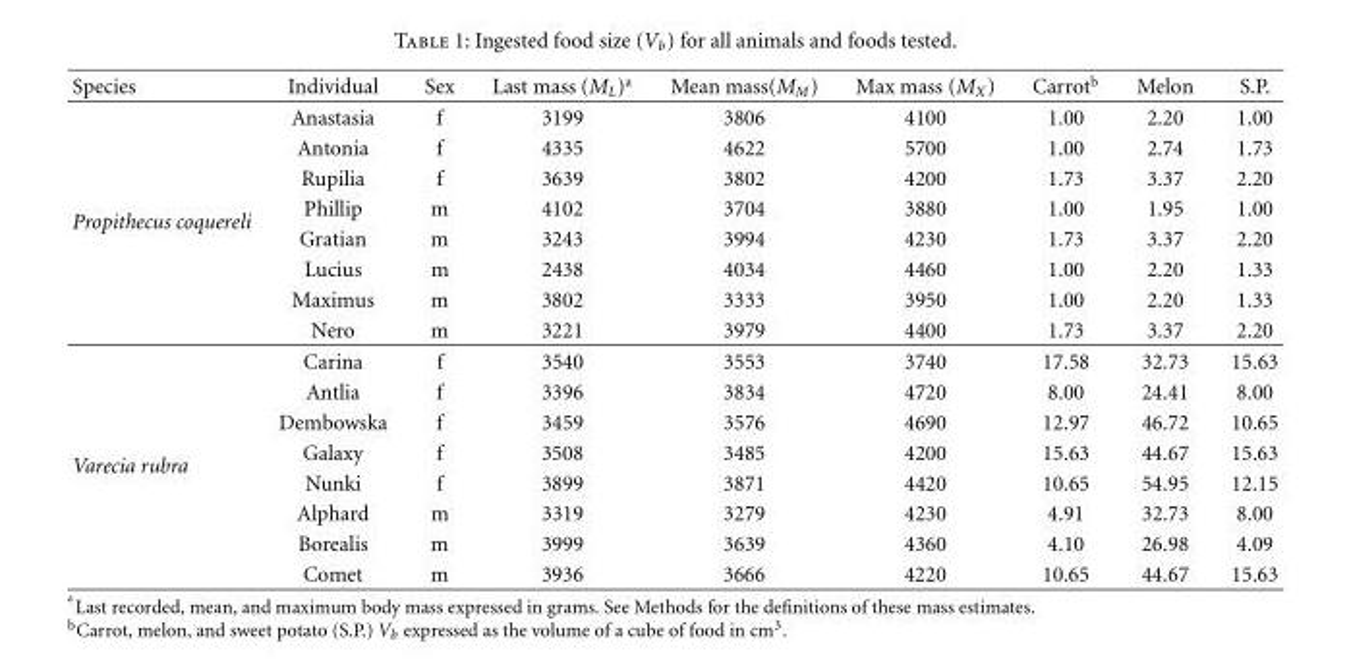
<table><thead><tr><td>Species</td><td>Individual</td><td>Sex</td><td>Last mass (M<sub>L</sub>)<sup>a</sup></td><td>Mean mass(M<sub>M</sub>)</td><td>Max mass (M<sub>X</sub>)</td><td>Carrot<sup>b</sup></td><td>Melon</td><td>S.P.</td></tr></thead><tbody><tr><td rowspan="8">Propithecus coquereli</td><td>Anastasia</td><td>f</td><td>3199</td><td>3806</td><td>4100</td><td>1.00</td><td>2.20</td><td>1.00</td></tr><tr><td>Antonia</td><td>f</td><td>4335</td><td>4622</td><td>5700</td><td>1.00</td><td>2.74</td><td>1.73</td></tr><tr><td>Rupilia</td><td>f</td><td>3639</td><td>3802</td><td>4200</td><td>1.73</td><td>3.37</td><td>2.20</td></tr><tr><td>Phillip</td><td>m</td><td>4102</td><td>3704</td><td>3880</td><td>1.00</td><td>1.95</td><td>1.00</td></tr><tr><td>Gratian</td><td>m</td><td>3243</td><td>3994</td><td>4230</td><td>1.73</td><td>3.37</td><td>2.20</td></tr><tr><td>Lucius</td><td>m</td><td>2438</td><td>4034</td><td>4460</td><td>1.00</td><td>2.20</td><td>1.33</td></tr><tr><td>Maximus</td><td>m</td><td>3802</td><td>3333</td><td>3950</td><td>1.00</td><td>2.20</td><td>1.33</td></tr><tr><td>Nero</td><td>m</td><td>3221</td><td>3979</td><td>4400</td><td>1.73</td><td>3.37</td><td>2.20</td></tr><tr><td rowspan="8">Varecia rubra</td><td>Carina</td><td>f</td><td>3540</td><td>3553</td><td>3740</td><td>17.58</td><td>32.73</td><td>15.63</td></tr><tr><td>Antlia</td><td>f</td><td>3396</td><td>3834</td><td>4720</td><td>8.00</td><td>24.41</td><td>8.00</td></tr><tr><td>Dembowska</td><td>f</td><td>3459</td><td>3576</td><td>4690</td><td>12.97</td><td>46.72</td><td>10.65</td></tr><tr><td>Galaxy</td><td>f</td><td>3508</td><td>3485</td><td>4200</td><td>15.63</td><td>44.67</td><td>15.63</td></tr><tr><td>Nunki</td><td>f</td><td>3899</td><td>3871</td><td>4420</td><td>10.65</td><td>54.95</td><td>12.15</td></tr><tr><td>Alphard</td><td>m</td><td>3319</td><td>3279</td><td>4230</td><td>4.91</td><td>32.73</td><td>8.00</td></tr><tr><td>Borealis</td><td>m</td><td>3999</td><td>3639</td><td>4360</td><td>4.10</td><td>26.98</td><td>4.09</td></tr><tr><td>Comet</td><td>m</td><td>3936</td><td>3666</td><td>4220</td><td>10.65</td><td>44.67</td><td>15.63</td></tr></tbody></table>